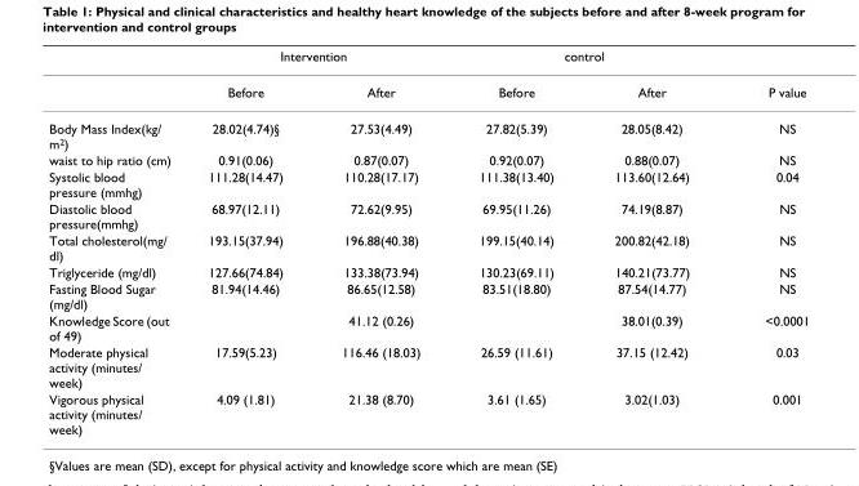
<table><thead><tr><td rowspan="2"></td><td colspan="2">Intervention</td><td colspan="2">control</td><td rowspan="2">P value</td></tr><tr><td>Before</td><td>After</td><td>Before</td><td>After</td></tr></thead><tbody><tr><td>Body Mass Index(kg/ m<sup>2</sup>)</td><td>28.02(4.74)§</td><td>27.53(4.49)</td><td>27.82(5.39)</td><td>28.05(8.42)</td><td>NS</td></tr><tr><td>waist to hip ratio (cm)</td><td>0.91(0.06)</td><td>0.87(0.07)</td><td>0.92(0.07)</td><td>0.88(0.07)</td><td>NS</td></tr><tr><td>Systolic blood pressure (mmhg)</td><td>111.28(14.47)</td><td>110.28(17.17)</td><td>111.38(13.40)</td><td>113.60(12.64)</td><td>0.04</td></tr><tr><td>Diastolic blood pressure(mmhg)</td><td>68.97(12.11)</td><td>72.62(9.95)</td><td>69.95(11.26)</td><td>74.19(8.87)</td><td>NS</td></tr><tr><td>Total cholesterol(mg/ dl)</td><td>193.15(37.94)</td><td>196.88(40.38)</td><td>199.15(40.14)</td><td>200.82(42.18)</td><td>NS</td></tr><tr><td>Triglyceride (mg/dl)</td><td>127.66(74.84)</td><td>133.38(73.94)</td><td>130.23(69.11)</td><td>140.21(73.77)</td><td>NS</td></tr><tr><td>Fasting Blood Sugar (mg/dl)</td><td>81.94(14.46)</td><td>86.65(12.58)</td><td>83.51(18.80)</td><td>87.54(14.77)</td><td>NS</td></tr><tr><td>Knowledge Score (out of 49)</td><td></td><td>41.12 (0.26)</td><td></td><td>38.01(0.39)</td><td>&lt;0.0001</td></tr><tr><td>Moderate physical activity (minutes/ week)</td><td>17.59(5.23)</td><td>116.46 (18.03)</td><td>26.59 (11.61)</td><td>37.15 (12.42)</td><td>0.03</td></tr><tr><td>Vigorous physical activity (minutes/ week)</td><td>4.09 (1.81)</td><td>21.38 (8.70)</td><td>3.61 (1.65)</td><td>3.02(1.03)</td><td>0.001</td></tr></tbody></table>